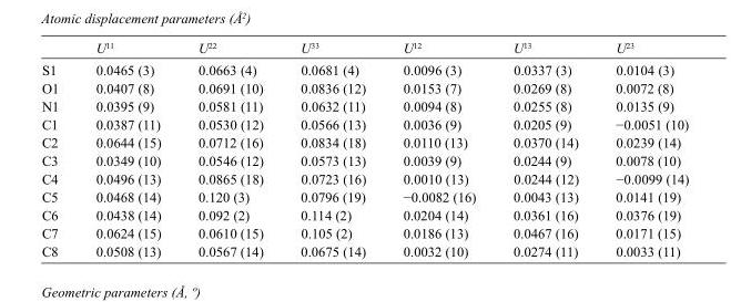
<table><thead><tr><td></td><td>U<sup>11</sup></td><td>U<sup>22</sup></td><td>U<sup>33</sup></td><td>U<sup>12</sup></td><td>U<sup>13</sup></td><td>U<sup>23</sup></td></tr></thead><tbody><tr><td>S1</td><td>0.0465 (3)</td><td>0.0663 (4)</td><td>0.0681 (4)</td><td>0.0096 (3)</td><td>0.0337 (3)</td><td>0.0104 (3)</td></tr><tr><td>O1</td><td>0.0407 (8)</td><td>0.0691 (10)</td><td>0.0836 (12)</td><td>0.0153 (7)</td><td>0.0269 (8)</td><td>0.0072 (8)</td></tr><tr><td>N1</td><td>0.0395 (9)</td><td>0.0581 (11)</td><td>0.0632 (11)</td><td>0.0094 (8)</td><td>0.0255 (8)</td><td>0.0135 (9)</td></tr><tr><td>C1</td><td>0.0387 (11)</td><td>0.0530 (12)</td><td>0.0566 (13)</td><td>0.0036 (9)</td><td>0.0205 (9)</td><td>−0.0051 (10)</td></tr><tr><td>C2</td><td>0.0644 (15)</td><td>0.0712 (16)</td><td>0.0834 (18)</td><td>0.0110 (13)</td><td>0.0370 (14)</td><td>0.0239 (14)</td></tr><tr><td>C3</td><td>0.0349 (10)</td><td>0.0546 (12)</td><td>0.0573 (13)</td><td>0.0039 (9)</td><td>0.0244 (9)</td><td>0.0078 (10)</td></tr><tr><td>C4</td><td>0.0496 (13)</td><td>0.0865 (18)</td><td>0.0723 (16)</td><td>0.0010 (13)</td><td>0.0244 (12)</td><td>−0.0099 (14)</td></tr><tr><td>C5</td><td>0.0468 (14)</td><td>0.120 (3)</td><td>0.0796 (19)</td><td>−0.0082 (16)</td><td>0.0043 (13)</td><td>0.0141 (19)</td></tr><tr><td>C6</td><td>0.0438 (14)</td><td>0.092 (2)</td><td>0.114 (2)</td><td>0.0204 (14)</td><td>0.0361 (16)</td><td>0.0376 (19)</td></tr><tr><td>C7</td><td>0.0624 (15)</td><td>0.0610 (15)</td><td>0.105 (2)</td><td>0.0186 (13)</td><td>0.0467 (16)</td><td>0.0171 (15)</td></tr><tr><td>C8</td><td>0.0508 (13)</td><td>0.0567 (14)</td><td>0.0675 (14)</td><td>0.0032 (10)</td><td>0.0274 (11)</td><td>0.0033 (11)</td></tr></tbody></table>